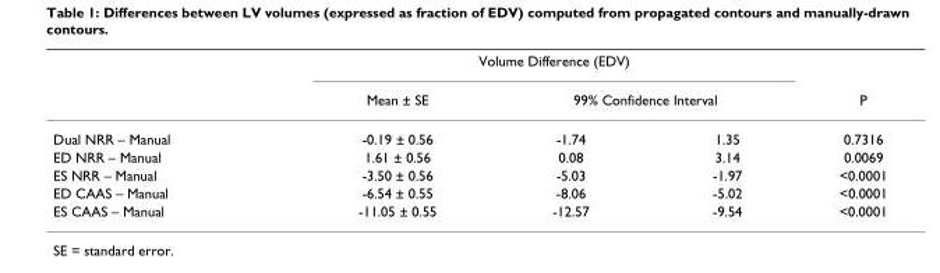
<table><thead><tr><td rowspan="3">Dual NRR – Manual</td><td colspan="3">Volume Difference (EDV)</td><td rowspan="3">P 0.7316</td></tr><tr><td rowspan="2">Mean ± SE -0.19 ± 0.56</td><td colspan="2">99% Confidence Interval</td></tr><tr><td>-1.74</td><td>1.35</td></tr></thead><tbody><tr><td>ED NRR – Manual</td><td>1.61 ± 0.56</td><td>0.08</td><td>3.14</td><td>0.0069</td></tr><tr><td>ES NRR – Manual</td><td>-3.50 ± 0.56</td><td>-5.03</td><td>-1.97</td><td>&lt;0.0001</td></tr><tr><td>ED CAAS – Manual</td><td>-6.54 ± 0.55</td><td>-8.06</td><td>-5.02</td><td>&lt;0.0001</td></tr><tr><td>ES CAAS – Manual</td><td>-11.05 ± 0.55</td><td>-12.57</td><td>-9.54</td><td>&lt;0.0001</td></tr></tbody></table>